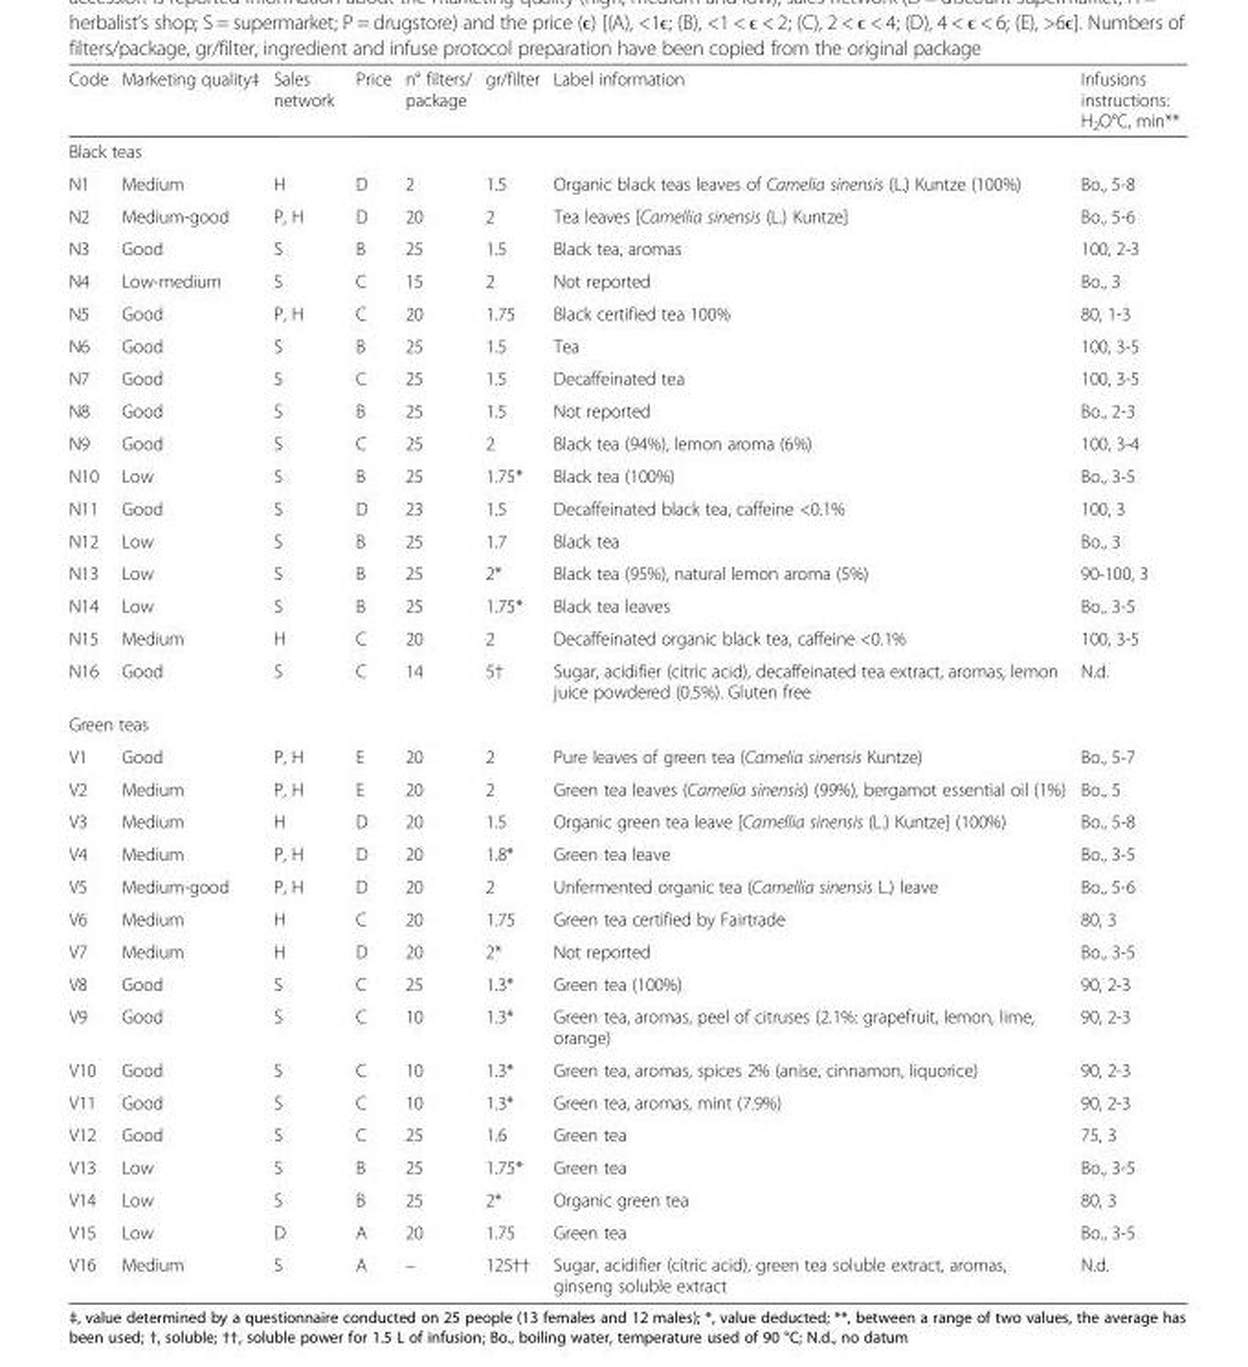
<table><thead><tr><td>Code</td><td>Marketing quality‡</td><td>Sales network</td><td>Price</td><td>n° filters/ package</td><td>gr/filter</td><td>Label information</td><td>Infusions instructions: H<sub>2</sub>O°C, min**</td></tr></thead><tbody><tr><td colspan="8">Black teas</td></tr><tr><td>N1</td><td>Medium</td><td>H</td><td>D</td><td>2</td><td>1.5</td><td>Organic black teas leaves of Camelia sinensis (L.) Kuntze (100%)</td><td>Bo., 5-8</td></tr><tr><td>N2</td><td>Medium-good</td><td>P, H</td><td>D</td><td>20</td><td>2</td><td>Tea leaves [Camellia sinensis (L.) Kuntze]</td><td>Bo., 5-6</td></tr><tr><td>N3</td><td>Good</td><td>S</td><td>B</td><td>25</td><td>1.5</td><td>Black tea, aromas</td><td>100, 2-3</td></tr><tr><td>N4</td><td>Low-medium</td><td>S</td><td>C</td><td>15</td><td>2</td><td>Not reported</td><td>Bo., 3</td></tr><tr><td>N5</td><td>Good</td><td>P, H</td><td>C</td><td>20</td><td>1.75</td><td>Black certified tea 100%</td><td>80, 1-3</td></tr><tr><td>N6</td><td>Good</td><td>S</td><td>B</td><td>25</td><td>1.5</td><td>Tea</td><td>100, 3-5</td></tr><tr><td>N7</td><td>Good</td><td>S</td><td>C</td><td>25</td><td>1.5</td><td>Decaffeinated tea</td><td>100, 3-5</td></tr><tr><td>N8</td><td>Good</td><td>S</td><td>B</td><td>25</td><td>1.5</td><td>Not reported</td><td>Bo., 2-3</td></tr><tr><td>N9</td><td>Good</td><td>S</td><td>C</td><td>25</td><td>2</td><td>Black tea (94%), lemon aroma (6%)</td><td>100, 3-4</td></tr><tr><td>N10</td><td>Low</td><td>S</td><td>B</td><td>25</td><td>1.75*</td><td>Black tea (100%)</td><td>Bo., 3-5</td></tr><tr><td>N11</td><td>Good</td><td>S</td><td>D</td><td>23</td><td>1.5</td><td>Decaffeinated black tea, caffeine &lt;0.1%</td><td>100, 3</td></tr><tr><td>N12</td><td>Low</td><td>S</td><td>B</td><td>25</td><td>1.7</td><td>Black tea</td><td>Bo., 3</td></tr><tr><td>N13</td><td>Low</td><td>S</td><td>B</td><td>25</td><td>2*</td><td>Black tea (95%), natural lemon aroma (5%)</td><td>90-100, 3</td></tr><tr><td>N14</td><td>Low</td><td>S</td><td>B</td><td>25</td><td>1.75*</td><td>Black tea leaves</td><td>Bo., 3-5</td></tr><tr><td>N15</td><td>Medium</td><td>H</td><td>C</td><td>20</td><td>2</td><td>Decaffeinated organic black tea, caffeine &lt;0.1%</td><td>100, 3-5</td></tr><tr><td>N16</td><td>Good</td><td>S</td><td>C</td><td>14</td><td>5†</td><td>Sugar, acidifier (citric acid), decaffeinated tea extract, aromas, lemon juice powdered (0.5%). Gluten free</td><td>N.d.</td></tr><tr><td colspan="8">Green teas</td></tr><tr><td>V1</td><td>Good</td><td>P, H</td><td>E</td><td>20</td><td>2</td><td>Pure leaves of green tea (Camelia sinensis Kuntze)</td><td>Bo., 5-7</td></tr><tr><td>V2</td><td>Medium</td><td>P, H</td><td>E</td><td>20</td><td>2</td><td>Green tea leaves (Camelia sinensis) (99%), bergamot essential oil (1%)</td><td>Bo., 5</td></tr><tr><td>V3</td><td>Medium</td><td>H</td><td>D</td><td>20</td><td>1.5</td><td>Organic green tea leave [Camellia sinensis (L.) Kuntze] (100%)</td><td>Bo., 5-8</td></tr><tr><td>V4</td><td>Medium</td><td>P, H</td><td>D</td><td>20</td><td>1.8*</td><td>Green tea leave</td><td>Bo., 3-5</td></tr><tr><td>V5</td><td>Medium-good</td><td>P, H</td><td>D</td><td>20</td><td>2</td><td>Unfermented organic tea (Camellia sinensis L.) leave</td><td>Bo., 5-6</td></tr><tr><td>V6</td><td>Medium</td><td>H</td><td>C</td><td>20</td><td>1.75</td><td>Green tea certified by Fairtrade</td><td>80, 3</td></tr><tr><td>V7</td><td>Medium</td><td>H</td><td>D</td><td>20</td><td>2*</td><td>Not reported</td><td>Bo., 3-5</td></tr><tr><td>V8</td><td>Good</td><td>S</td><td>C</td><td>25</td><td>1.3*</td><td>Green tea (100%)</td><td>90, 2-3</td></tr><tr><td>V9</td><td>Good</td><td>S</td><td>C</td><td>10</td><td>1.3*</td><td>Green tea, aromas, peel of citruses (2.1%: grapefruit, lemon, lime, orange)</td><td>90, 2-3</td></tr><tr><td>V10</td><td>Good</td><td>S</td><td>C</td><td>10</td><td>1.3*</td><td>Green tea, aromas, spices 2% (anise, cinnamon, liquorice)</td><td>90, 2-3</td></tr><tr><td>V11</td><td>Good</td><td>S</td><td>C</td><td>10</td><td>1.3*</td><td>Green tea, aromas, mint (7.9%)</td><td>90, 2-3</td></tr><tr><td>V12</td><td>Good</td><td>S</td><td>C</td><td>25</td><td>1.6</td><td>Green tea</td><td>75, 3</td></tr><tr><td>V13</td><td>Low</td><td>S</td><td>B</td><td>25</td><td>1.75*</td><td>Green tea</td><td>Bo., 3-5</td></tr><tr><td>V14</td><td>Low</td><td>S</td><td>B</td><td>25</td><td>2*</td><td>Organic green tea</td><td>80, 3</td></tr><tr><td>V15</td><td>Low</td><td>D</td><td>A</td><td>20</td><td>1.75</td><td>Green tea</td><td>Bo., 3-5</td></tr><tr><td>V16</td><td>Medium</td><td>S</td><td>A</td><td>–</td><td>125††</td><td>Sugar, acidifier (citric acid), green tea soluble extract, aromas, ginseng soluble extract</td><td>N.d.</td></tr></tbody></table>